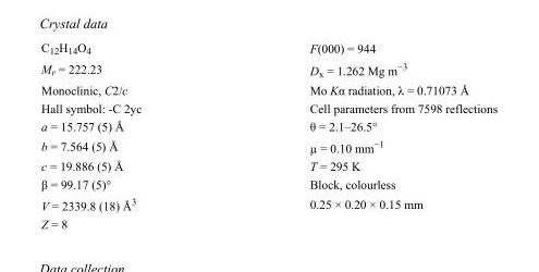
<table><tbody><tr><td>C<sub>12</sub>H<sub>14</sub>O<sub>4</sub></td><td>F(000) = 944</td></tr><tr><td>M<sub>r</sub> = 222.23</td><td>D<sub>x</sub> = 1.262 Mg m<sup>−3</sup></td></tr><tr><td>Monoclinic, C2/c</td><td>Mo Kα radiation, λ = 0.71073 Å</td></tr><tr><td>Hall symbol: -C 2yc</td><td>Cell parameters from 7598 reflections</td></tr><tr><td>a = 15.757 (5) Å</td><td>θ = 2.1–26.5°</td></tr><tr><td>b = 7.564 (5) Å</td><td>µ = 0.10 mm<sup>−1</sup></td></tr><tr><td>c = 19.886 (5) Å</td><td>T = 295 K</td></tr><tr><td>β = 99.17 (5)°</td><td>Block, colourless</td></tr><tr><td>V = 2339.8 (18) Å<sup>3</sup></td><td>0.25 × 0.20 × 0.15 mm</td></tr><tr><td>Z = 8</td><td></td></tr></tbody></table>